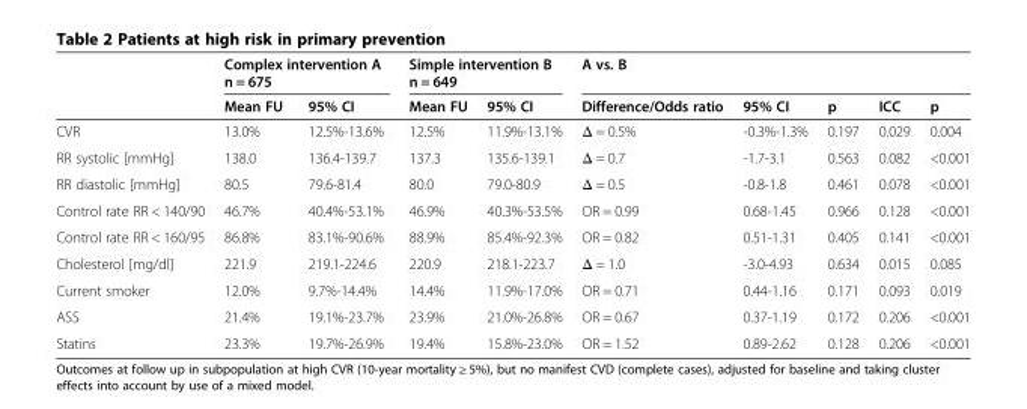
<table><thead><tr><td rowspan="2"></td><td colspan="2">Complex intervention A n = 675</td><td colspan="2">Simple intervention B n = 649</td><td colspan="5">A vs. B</td></tr><tr><td>Mean FU</td><td>95% CI</td><td>Mean FU</td><td>95% CI</td><td>Difference/Odds ratio</td><td>95% CI</td><td>p</td><td>ICC</td><td>p</td></tr></thead><tbody><tr><td>CVR</td><td>13.0%</td><td>12.5%-13.6%</td><td>12.5%</td><td>11.9%-13.1%</td><td>Δ = 0.5%</td><td>-0.3%-1.3%</td><td>0.197</td><td>0.029</td><td>0.004</td></tr><tr><td>RR systolic [mmHg]</td><td>138.0</td><td>136.4-139.7</td><td>137.3</td><td>135.6-139.1</td><td>Δ = 0.7</td><td>-1.7-3.1</td><td>0.563</td><td>0.082</td><td>&lt;0.001</td></tr><tr><td>RR diastolic [mmHg]</td><td>80.5</td><td>79.6-81.4</td><td>80.0</td><td>79.0-80.9</td><td>Δ = 0.5</td><td>-0.8-1.8</td><td>0.461</td><td>0.078</td><td>&lt;0.001</td></tr><tr><td>Control rate RR &lt; 140/90</td><td>46.7%</td><td>40.4%-53.1%</td><td>46.9%</td><td>40.3%-53.5%</td><td>OR = 0.99</td><td>0.68-1.45</td><td>0.966</td><td>0.128</td><td>&lt;0.001</td></tr><tr><td>Control rate RR &lt; 160/95</td><td>86.8%</td><td>83.1%-90.6%</td><td>88.9%</td><td>85.4%-92.3%</td><td>OR = 0.82</td><td>0.51-1.31</td><td>0.405</td><td>0.141</td><td>&lt;0.001</td></tr><tr><td>Cholesterol [mg/dl]</td><td>221.9</td><td>219.1-224.6</td><td>220.9</td><td>218.1-223.7</td><td>Δ = 1.0</td><td>-3.0-4.93</td><td>0.634</td><td>0.015</td><td>0.085</td></tr><tr><td>Current smoker</td><td>12.0%</td><td>9.7%-14.4%</td><td>14.4%</td><td>11.9%-17.0%</td><td>OR = 0.71</td><td>0.44-1.16</td><td>0.171</td><td>0.093</td><td>0.019</td></tr><tr><td>ASS</td><td>21.4%</td><td>19.1%-23.7%</td><td>23.9%</td><td>21.0%-26.8%</td><td>OR = 0.67</td><td>0.37-1.19</td><td>0.172</td><td>0.206</td><td>&lt;0.001</td></tr><tr><td>Statins</td><td>23.3%</td><td>19.7%-26.9%</td><td>19.4%</td><td>15.8%-23.0%</td><td>OR = 1.52</td><td>0.89-2.62</td><td>0.128</td><td>0.206</td><td>&lt;0.001</td></tr></tbody></table>